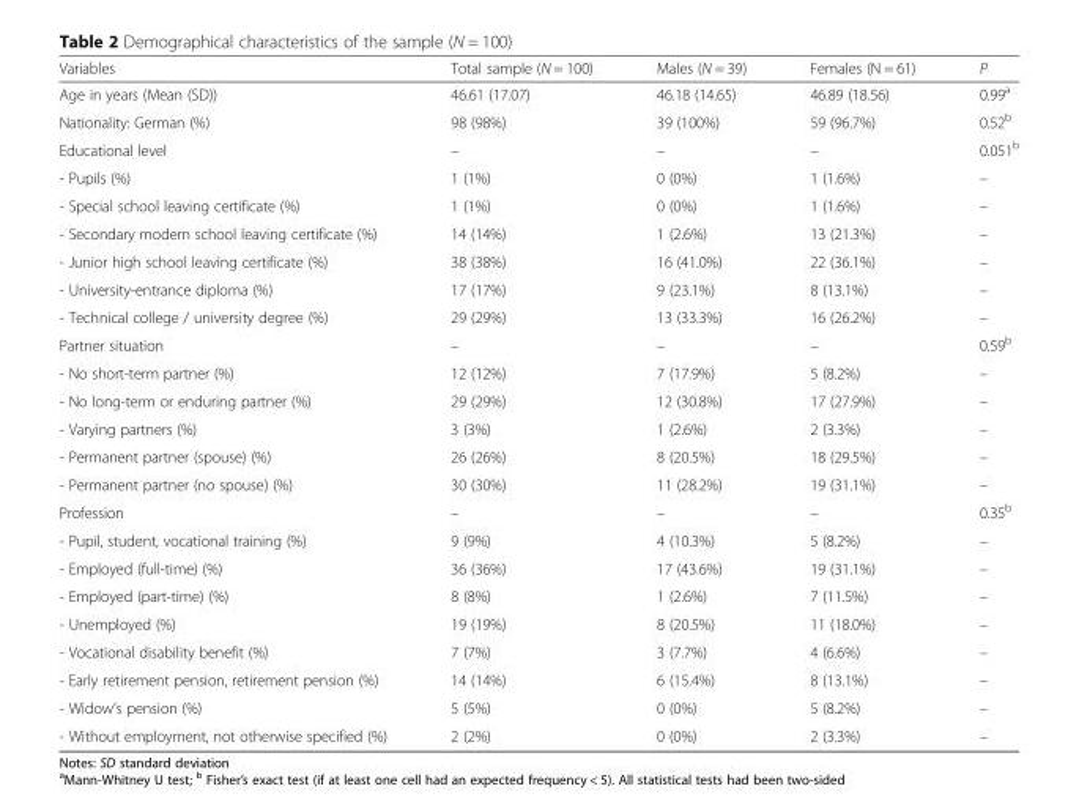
<table><thead><tr><td>Variables</td><td>Total sample (N = 100)</td><td>Males (N = 39)</td><td>Females (N = 61)</td><td>P</td></tr></thead><tbody><tr><td>Age in years (Mean (SD))</td><td>46.61 (17.07)</td><td>46.18 (14.65)</td><td>46.89 (18.56)</td><td>0.99<sup>a</sup></td></tr><tr><td>Nationality: German (%)</td><td>98 (98%)</td><td>39 (100%)</td><td>59 (96.7%)</td><td>0.52<sup>b</sup></td></tr><tr><td>Educational level</td><td>–</td><td>–</td><td>–</td><td>0.051<sup>b</sup></td></tr><tr><td>- Pupils (%)</td><td>1 (1%)</td><td>0 (0%)</td><td>1 (1.6%)</td><td>–</td></tr><tr><td>- Special school leaving certificate (%)</td><td>1 (1%)</td><td>0 (0%)</td><td>1 (1.6%)</td><td>–</td></tr><tr><td>- Secondary modern school leaving certificate (%)</td><td>14 (14%)</td><td>1 (2.6%)</td><td>13 (21.3%)</td><td>–</td></tr><tr><td>- Junior high school leaving certificate (%)</td><td>38 (38%)</td><td>16 (41.0%)</td><td>22 (36.1%)</td><td>–</td></tr><tr><td>- University-entrance diploma (%)</td><td>17 (17%)</td><td>9 (23.1%)</td><td>8 (13.1%)</td><td>–</td></tr><tr><td>- Technical college / university degree (%)</td><td>29 (29%)</td><td>13 (33.3%)</td><td>16 (26.2%)</td><td>–</td></tr><tr><td>Partner situation</td><td>–</td><td>–</td><td>–</td><td>0.59<sup>b</sup></td></tr><tr><td>- No short-term partner (%)</td><td>12 (12%)</td><td>7 (17.9%)</td><td>5 (8.2%)</td><td>–</td></tr><tr><td>- No long-term or enduring partner (%)</td><td>29 (29%)</td><td>12 (30.8%)</td><td>17 (27.9%)</td><td>–</td></tr><tr><td>- Varying partners (%)</td><td>3 (3%)</td><td>1 (2.6%)</td><td>2 (3.3%)</td><td>–</td></tr><tr><td>- Permanent partner (spouse) (%)</td><td>26 (26%)</td><td>8 (20.5%)</td><td>18 (29.5%)</td><td>–</td></tr><tr><td>- Permanent partner (no spouse) (%)</td><td>30 (30%)</td><td>11 (28.2%)</td><td>19 (31.1%)</td><td>–</td></tr><tr><td>Profession</td><td>–</td><td>–</td><td>–</td><td>0.35<sup>b</sup></td></tr><tr><td>- Pupil, student, vocational training (%)</td><td>9 (9%)</td><td>4 (10.3%)</td><td>5 (8.2%)</td><td>–</td></tr><tr><td>- Employed (full-time) (%)</td><td>36 (36%)</td><td>17 (43.6%)</td><td>19 (31.1%)</td><td>–</td></tr><tr><td>- Employed (part-time) (%)</td><td>8 (8%)</td><td>1 (2.6%)</td><td>7 (11.5%)</td><td>–</td></tr><tr><td>- Unemployed (%)</td><td>19 (19%)</td><td>8 (20.5%)</td><td>11 (18.0%)</td><td>–</td></tr><tr><td>- Vocational disability benefit (%)</td><td>7 (7%)</td><td>3 (7.7%)</td><td>4 (6.6%)</td><td>–</td></tr><tr><td>- Early retirement pension, retirement pension (%)</td><td>14 (14%)</td><td>6 (15.4%)</td><td>8 (13.1%)</td><td>–</td></tr><tr><td>- Widow’s pension (%)</td><td>5 (5%)</td><td>0 (0%)</td><td>5 (8.2%)</td><td>–</td></tr><tr><td>- Without employment, not otherwise specified (%)</td><td>2 (2%)</td><td>0 (0%)</td><td>2 (3.3%)</td><td>–</td></tr></tbody></table>